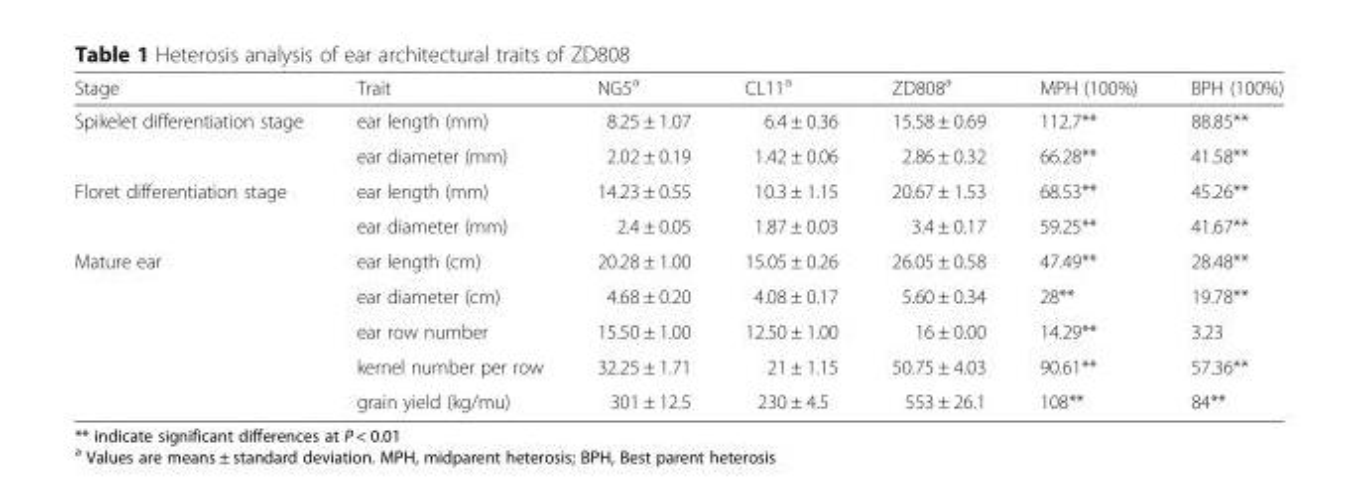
<table><thead><tr><td>Stage</td><td>Trait</td><td>NG5<sup>a</sup></td><td>CL11<sup>a</sup></td><td>ZD808<sup>a</sup></td><td>MPH (100%)</td><td>BPH (100%)</td></tr></thead><tbody><tr><td rowspan="2">Spikelet differentiation stage</td><td>ear length (mm)</td><td>8.25 ± 1.07</td><td>6.4 ± 0.36</td><td>15.58 ± 0.69</td><td>112.7**</td><td>88.85**</td></tr><tr><td>ear diameter (mm)</td><td>2.02 ± 0.19</td><td>1.42 ± 0.06</td><td>2.86 ± 0.32</td><td>66.28**</td><td>41.58**</td></tr><tr><td rowspan="2">Floret differentiation stage</td><td>ear length (mm)</td><td>14.23 ± 0.55</td><td>10.3 ± 1.15</td><td>20.67 ± 1.53</td><td>68.53**</td><td>45.26**</td></tr><tr><td>ear diameter (mm)</td><td>2.4 ± 0.05</td><td>1.87 ± 0.03</td><td>3.4 ± 0.17</td><td>59.25**</td><td>41.67**</td></tr><tr><td rowspan="5">Mature ear</td><td>ear length (cm)</td><td>20.28 ± 1.00</td><td>15.05 ± 0.26</td><td>26.05 ± 0.58</td><td>47.49**</td><td>28.48**</td></tr><tr><td>ear diameter (cm)</td><td>4.68 ± 0.20</td><td>4.08 ± 0.17</td><td>5.60 ± 0.34</td><td>28**</td><td>19.78**</td></tr><tr><td>ear row number</td><td>15.50 ± 1.00</td><td>12.50 ± 1.00</td><td>16 ± 0.00</td><td>14.29**</td><td>3.23</td></tr><tr><td>kernel number per row</td><td>32.25 ± 1.71</td><td>21 ± 1.15</td><td>50.75 ± 4.03</td><td>90.61**</td><td>57.36**</td></tr><tr><td>grain yield (kg/mu)</td><td>301 ± 12.5</td><td>230 ± 4.5</td><td>553 ± 26.1</td><td>108**</td><td>84**</td></tr></tbody></table>